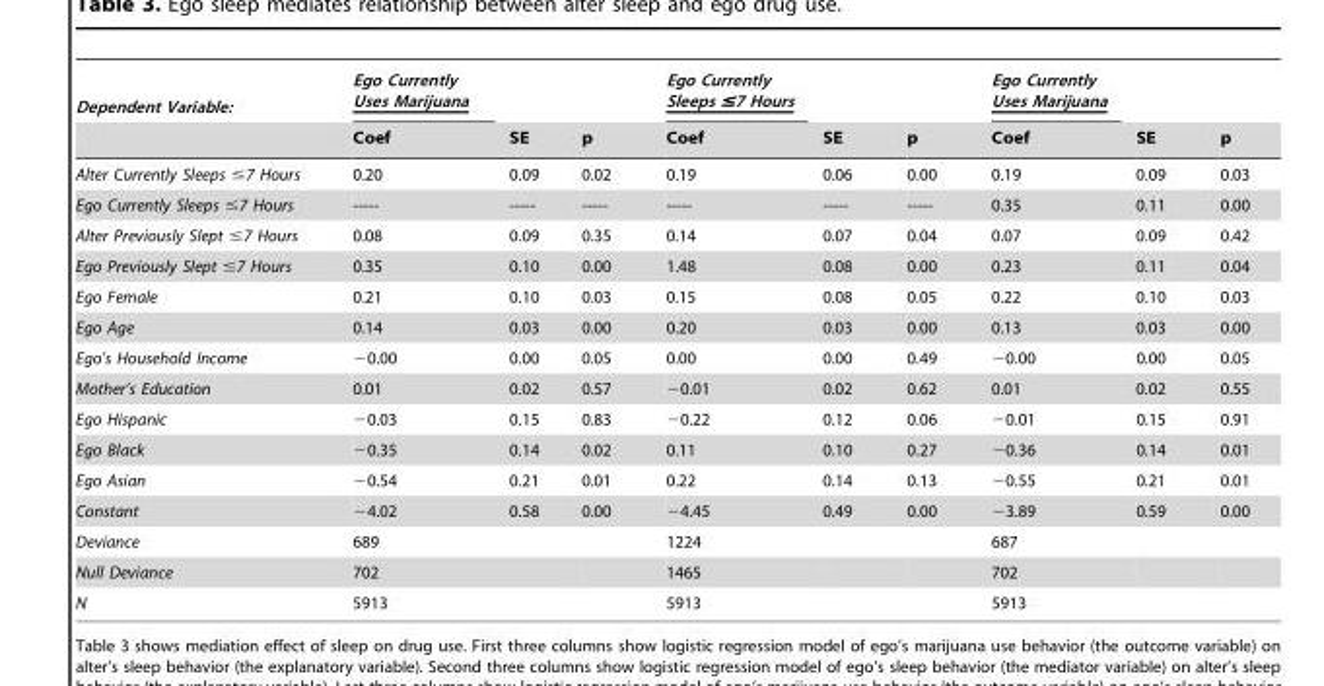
<table><thead><tr><td rowspan="2">Dependent Variable:</td><td rowspan="2">Ego Currently Uses Marijuana Coef</td><td rowspan="2">SE</td><td rowspan="2">p</td><td rowspan="2">Ego Currently Sleeps ≤7 Hours Coef</td><td rowspan="2">SE</td><td rowspan="2">p</td><td rowspan="2">Ego Currently Uses Marijuana Coef</td><td rowspan="2">SE</td><td rowspan="2">p</td></tr><tr></tr></thead><tbody><tr><td>Alter Currently Sleeps ≤7 Hours</td><td>0.20</td><td>0.09</td><td>0.02</td><td>0.19</td><td>0.06</td><td>0.00</td><td>0.19</td><td>0.09</td><td>0.03</td></tr><tr><td>Ego Currently Sleeps ≤7 Hours</td><td>-----</td><td>-----</td><td>-----</td><td>-----</td><td>-----</td><td>-----</td><td>0.35</td><td>0.11</td><td>0.00</td></tr><tr><td>Alter Previously Slept ≤7 Hours</td><td>0.08</td><td>0.09</td><td>0.35</td><td>0.14</td><td>0.07</td><td>0.04</td><td>0.07</td><td>0.09</td><td>0.42</td></tr><tr><td>Ego Previously Slept ≤7 Hours</td><td>0.35</td><td>0.10</td><td>0.00</td><td>1.48</td><td>0.08</td><td>0.00</td><td>0.23</td><td>0.11</td><td>0.04</td></tr><tr><td>Ego Female</td><td>0.21</td><td>0.10</td><td>0.03</td><td>0.15</td><td>0.08</td><td>0.05</td><td>0.22</td><td>0.10</td><td>0.03</td></tr><tr><td>Ego Age</td><td>0.14</td><td>0.03</td><td>0.00</td><td>0.20</td><td>0.03</td><td>0.00</td><td>0.13</td><td>0.03</td><td>0.00</td></tr><tr><td>Ego’s Household Income</td><td>−0.00</td><td>0.00</td><td>0.05</td><td>0.00</td><td>0.00</td><td>0.49</td><td>−0.00</td><td>0.00</td><td>0.05</td></tr><tr><td>Mother’s Education</td><td>0.01</td><td>0.02</td><td>0.57</td><td>−0.01</td><td>0.02</td><td>0.62</td><td>0.01</td><td>0.02</td><td>0.55</td></tr><tr><td>Ego Hispanic</td><td>−0.03</td><td>0.15</td><td>0.83</td><td>−0.22</td><td>0.12</td><td>0.06</td><td>−0.01</td><td>0.15</td><td>0.91</td></tr><tr><td>Ego Black</td><td>−0.35</td><td>0.14</td><td>0.02</td><td>0.11</td><td>0.10</td><td>0.27</td><td>−0.36</td><td>0.14</td><td>0.01</td></tr><tr><td>Ego Asian</td><td>−0.54</td><td>0.21</td><td>0.01</td><td>0.22</td><td>0.14</td><td>0.13</td><td>−0.55</td><td>0.21</td><td>0.01</td></tr><tr><td>Constant</td><td>−4.02</td><td>0.58</td><td>0.00</td><td>−4.45</td><td>0.49</td><td>0.00</td><td>−3.89</td><td>0.59</td><td>0.00</td></tr><tr><td>Deviance</td><td>689</td><td></td><td></td><td>1224</td><td></td><td></td><td>687</td><td></td><td></td></tr><tr><td>Null Deviance</td><td>702</td><td></td><td></td><td>1465</td><td></td><td></td><td>702</td><td></td><td></td></tr><tr><td>N</td><td>5913</td><td></td><td></td><td>5913</td><td></td><td></td><td>5913</td><td></td><td></td></tr></tbody></table>